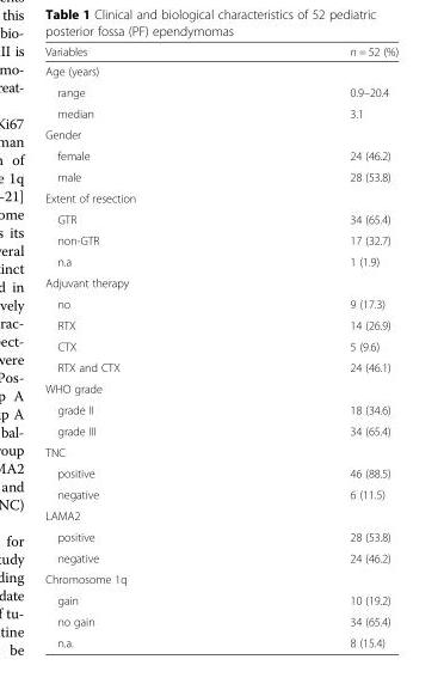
<table><thead><tr><td>Variables</td><td>n = 52 (%)</td></tr></thead><tbody><tr><td colspan="2">Age (years)</td></tr><tr><td>range</td><td>0.9–20.4</td></tr><tr><td>median</td><td>3.1</td></tr><tr><td colspan="2">Gender</td></tr><tr><td>female</td><td>24 (46.2)</td></tr><tr><td>male</td><td>28 (53.8)</td></tr><tr><td colspan="2">Extent of resection</td></tr><tr><td>GTR</td><td>34 (65.4)</td></tr><tr><td>non-GTR</td><td>17 (32.7)</td></tr><tr><td>n.a</td><td>1 (1.9)</td></tr><tr><td colspan="2">Adjuvant therapy</td></tr><tr><td>no</td><td>9 (17.3)</td></tr><tr><td>RTX</td><td>14 (26.9)</td></tr><tr><td>CTX</td><td>5 (9.6)</td></tr><tr><td>RTX and CTX</td><td>24 (46.1)</td></tr><tr><td colspan="2">WHO grade</td></tr><tr><td>grade II</td><td>18 (34.6)</td></tr><tr><td>grade III</td><td>34 (65.4)</td></tr><tr><td colspan="2">TNC</td></tr><tr><td>positive</td><td>46 (88.5)</td></tr><tr><td>negative</td><td>6 (11.5)</td></tr><tr><td colspan="2">LAMA2</td></tr><tr><td>positive</td><td>28 (53.8)</td></tr><tr><td>negative</td><td>24 (46.2)</td></tr><tr><td colspan="2">Chromosome 1q</td></tr><tr><td>gain</td><td>10 (19.2)</td></tr><tr><td>no gain</td><td>34 (65.4)</td></tr><tr><td>n.a.</td><td>8 (15.4)</td></tr></tbody></table>